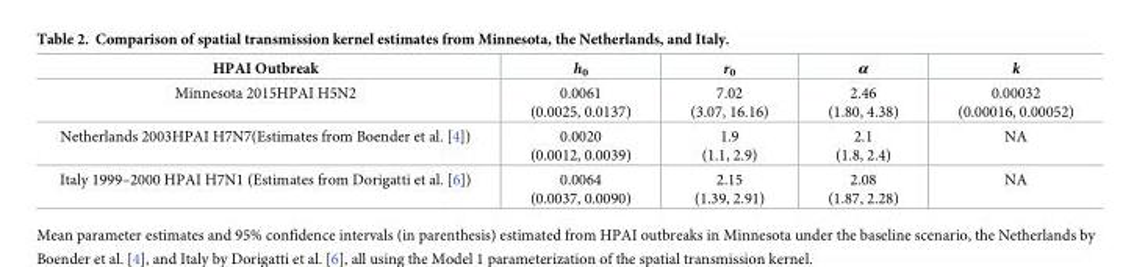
<table><thead><tr><td>HPAI Outbreak</td><td>h<sub>0</sub></td><td>r<sub>0</sub></td><td>α</td><td>k</td></tr></thead><tbody><tr><td>Minnesota 2015HPAI H5N2</td><td>0.0061 (0.0025, 0.0137)</td><td>7.02 (3.07, 16.16)</td><td>2.46 (1.80, 4.38)</td><td>0.00032 (0.00016, 0.00052)</td></tr><tr><td>Netherlands 2003HPAI H7N7(Estimates from Boender et al. [4])</td><td>0.0020 (0.0012, 0.0039)</td><td>1.9 (1.1, 2.9)</td><td>2.1 (1.8, 2.4)</td><td>NA</td></tr><tr><td>Italy 1999–2000 HPAI H7N1 (Estimates from Dorigatti et al. [6])</td><td>0.0064 (0.0037, 0.0090)</td><td>2.15 (1.39, 2.91)</td><td>2.08 (1.87, 2.28)</td><td>NA</td></tr></tbody></table>